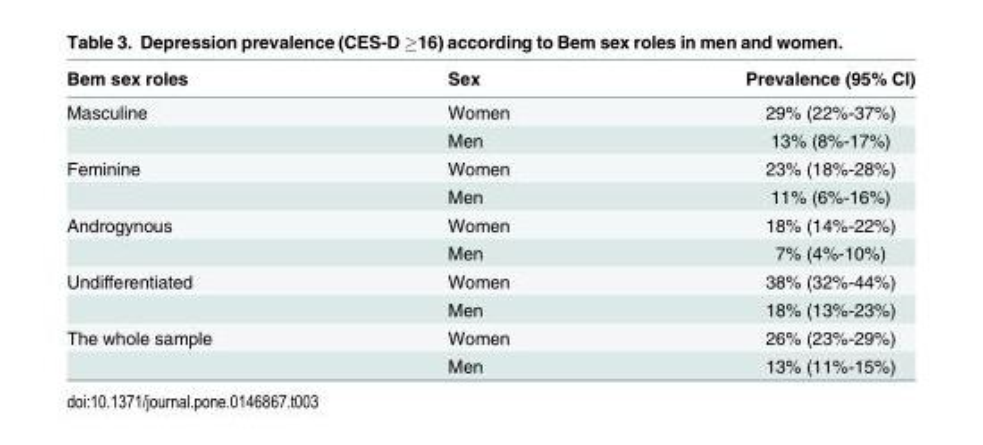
<table><thead><tr><td>Bem sex roles</td><td>Sex</td><td>Prevalence (95% CI)</td></tr></thead><tbody><tr><td rowspan="2">Masculine</td><td>Women</td><td>29% (22%-37%)</td></tr><tr><td>Men</td><td>13% (8%-17%)</td></tr><tr><td rowspan="2">Feminine</td><td>Women</td><td>23% (18%-28%)</td></tr><tr><td>Men</td><td>11% (6%-16%)</td></tr><tr><td rowspan="2">Androgynous</td><td>Women</td><td>18% (14%-22%)</td></tr><tr><td>Men</td><td>7% (4%-10%)</td></tr><tr><td rowspan="2">Undifferentiated</td><td>Women</td><td>38% (32%-44%)</td></tr><tr><td>Men</td><td>18% (13%-23%)</td></tr><tr><td rowspan="2">The whole sample</td><td>Women</td><td>26% (23%-29%)</td></tr><tr><td>Men</td><td>13% (11%-15%)</td></tr></tbody></table>